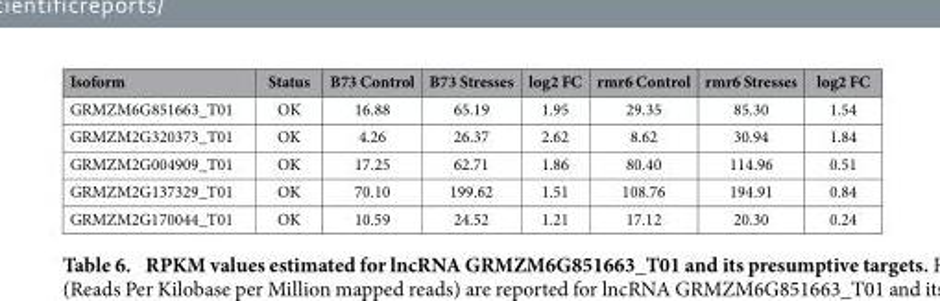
<table><thead><tr><td>Isoform</td><td>Status</td><td>B73 Control</td><td>B73 Stresses</td><td>log2 FC</td><td>rmr6 Control</td><td>rmr6 Stresses</td><td>log2 FC</td></tr></thead><tbody><tr><td>GRMZM6G851663_T01</td><td>OK</td><td>16.88</td><td>65.19</td><td>1.95</td><td>29.35</td><td>85.30</td><td>1.54</td></tr><tr><td>GRMZM2G320373_T01</td><td>OK</td><td>4.26</td><td>26.37</td><td>2.62</td><td>8.62</td><td>30.94</td><td>1.84</td></tr><tr><td>GRMZM2G004909_T01</td><td>OK</td><td>17.25</td><td>62.71</td><td>1.86</td><td>80.40</td><td>114.96</td><td>0.51</td></tr><tr><td>GRMZM2G137329_T01</td><td>OK</td><td>70.10</td><td>199.62</td><td>1.51</td><td>108.76</td><td>194.91</td><td>0.84</td></tr><tr><td>GRMZM2G170044_T01</td><td>OK</td><td>10.59</td><td>24.52</td><td>1.21</td><td>17.12</td><td>20.30</td><td>0.24</td></tr></tbody></table>